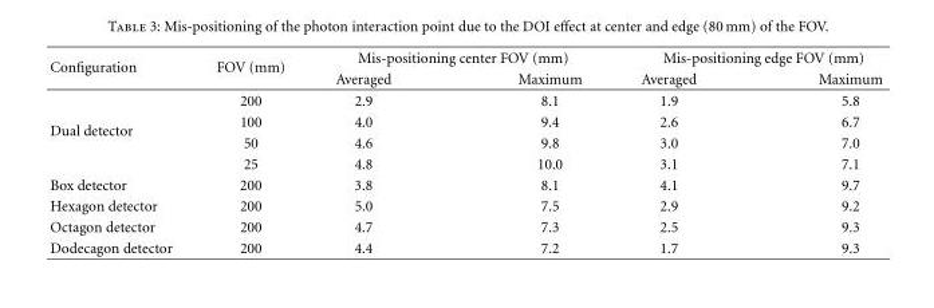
<table><thead><tr><td rowspan="2">Configuration</td><td rowspan="2">FOV (mm)</td><td colspan="2">Mis-positioning center FOV (mm)</td><td colspan="2">Mis-positioning edge FOV (mm)</td></tr><tr><td>Averaged</td><td>Maximum</td><td>Averaged</td><td>Maximum</td></tr></thead><tbody><tr><td></td><td>200</td><td>2.9</td><td>8.1</td><td>1.9</td><td>5.8</td></tr><tr><td rowspan="3">Dual detector</td><td>100</td><td>4.0</td><td>9.4</td><td>2.6</td><td>6.7</td></tr><tr><td>50</td><td>4.6</td><td>9.8</td><td>3.0</td><td>7.0</td></tr><tr><td>25</td><td>4.8</td><td>10.0</td><td>3.1</td><td>7.1</td></tr><tr><td>Box detector</td><td>200</td><td>3.8</td><td>8.1</td><td>4.1</td><td>9.7</td></tr><tr><td>Hexagon detector</td><td>200</td><td>5.0</td><td>7.5</td><td>2.9</td><td>9.2</td></tr><tr><td>Octagon detector</td><td>200</td><td>4.7</td><td>7.3</td><td>2.5</td><td>9.3</td></tr><tr><td>Dodecagon detector</td><td>200</td><td>4.4</td><td>7.2</td><td>1.7</td><td>9.3</td></tr></tbody></table>